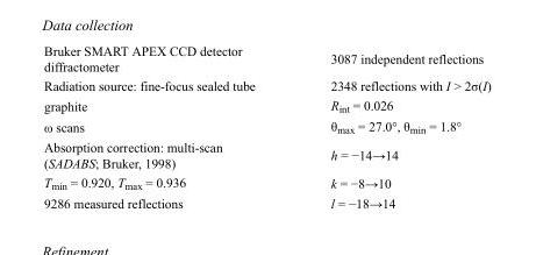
<table><tbody><tr><td>Bruker SMART APEX CCD detector diffractometer</td><td>3087 independent reflections</td></tr><tr><td>Radiation source: fine-focus sealed tube</td><td>2348 reflections with I &gt; 2σ(I)</td></tr><tr><td>graphite</td><td>R<sub>int</sub> = 0.026</td></tr><tr><td>ω scans</td><td>θ<sub>max</sub> = 27.0°, θ<sub>min</sub> = 1.8°</td></tr><tr><td>Absorption correction: multi-scan (SADABS; Bruker, 1998)</td><td>h = −14→14</td></tr><tr><td>T<sub>min</sub> = 0.920, T<sub>max</sub> = 0.936</td><td>k = −8→10</td></tr><tr><td>9286 measured reflections</td><td>l = −18→14</td></tr></tbody></table>